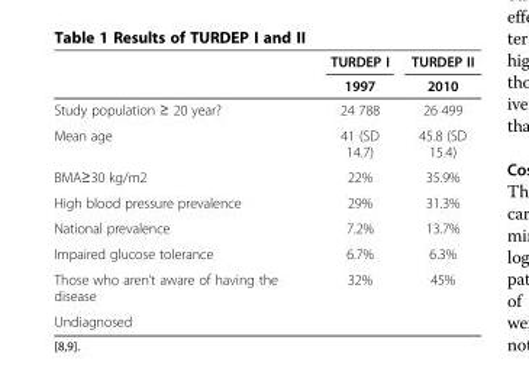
<table><thead><tr><td rowspan="2"></td><td rowspan="2">TURDEP I 1997</td><td rowspan="2">TURDEP II 2010</td></tr><tr></tr></thead><tbody><tr><td>Study population ≥ 20 year?</td><td>24 788</td><td>26 499</td></tr><tr><td>Mean age</td><td>41 (SD 14.7)</td><td>45.8 (SD 15.4)</td></tr><tr><td>BMA≥30 kg/m2</td><td>22%</td><td>35.9%</td></tr><tr><td>High blood pressure prevalence</td><td>29%</td><td>31.3%</td></tr><tr><td>National prevalence</td><td>7.2%</td><td>13.7%</td></tr><tr><td>Impaired glucose tolerance</td><td>6.7%</td><td>6.3%</td></tr><tr><td>Those who aren’t aware of having the disease</td><td>32%</td><td>45%</td></tr><tr><td>Undiagnosed</td><td></td><td></td></tr></tbody></table>